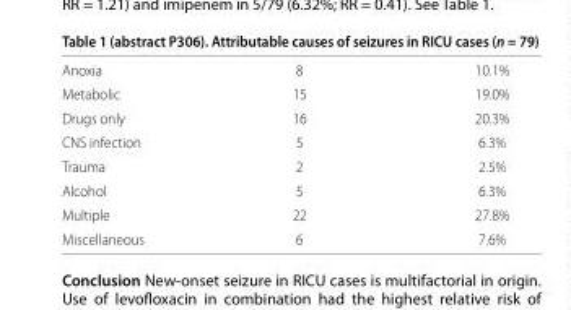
<table><tbody><tr><td>Anoxia</td><td>8</td><td>10.1%</td></tr><tr><td>Metabolic</td><td>15</td><td>19.0%</td></tr><tr><td>Drugs only</td><td>16</td><td>20.3%</td></tr><tr><td>CNS infection</td><td>5</td><td>6.3%</td></tr><tr><td>Trauma</td><td>2</td><td>2.5%</td></tr><tr><td>Alcohol</td><td>5</td><td>6.3%</td></tr><tr><td>Multiple</td><td>22</td><td>27.8%</td></tr><tr><td>Miscellaneous</td><td>6</td><td>7.6%</td></tr></tbody></table>